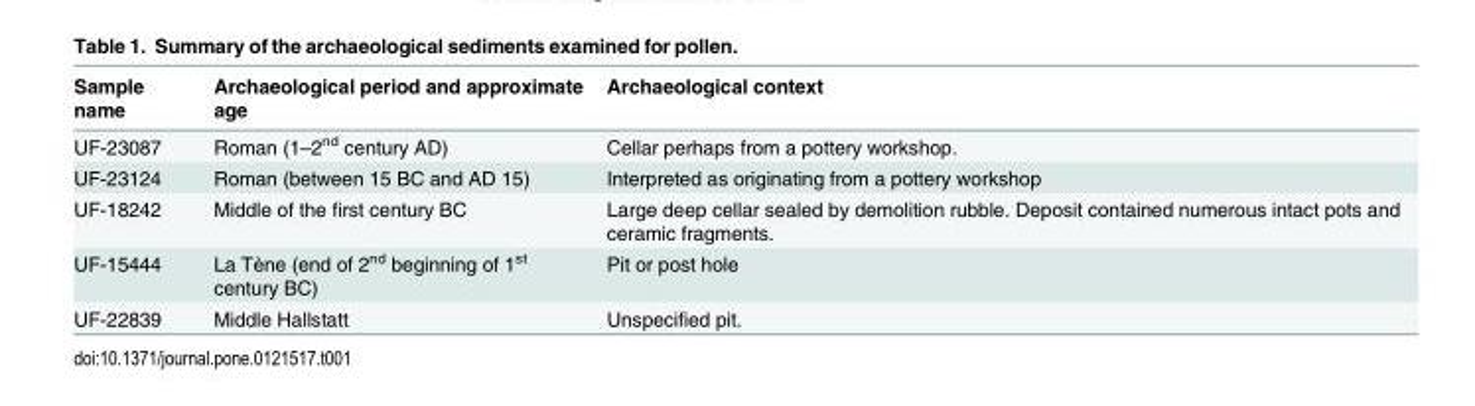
<table><thead><tr><td>Sample name</td><td>Archaeological period and approximate age</td><td>Archaeological context</td></tr></thead><tbody><tr><td>UF-23087</td><td>Roman (1–2<sup>nd</sup> century AD)</td><td>Cellar perhaps from a pottery workshop.</td></tr><tr><td>UF-23124</td><td>Roman (between 15 BC and AD 15)</td><td>Interpreted as originating from a pottery workshop</td></tr><tr><td>UF-18242</td><td>Middle of the first century BC</td><td>Large deep cellar sealed by demolition rubble. Deposit contained numerous intact pots and ceramic fragments.</td></tr><tr><td>UF-15444</td><td>La Tène (end of 2<sup>nd</sup> beginning of 1<sup>st</sup> century BC)</td><td>Pit or post hole</td></tr><tr><td>UF-22839</td><td>Middle Hallstatt</td><td>Unspecified pit.</td></tr></tbody></table>